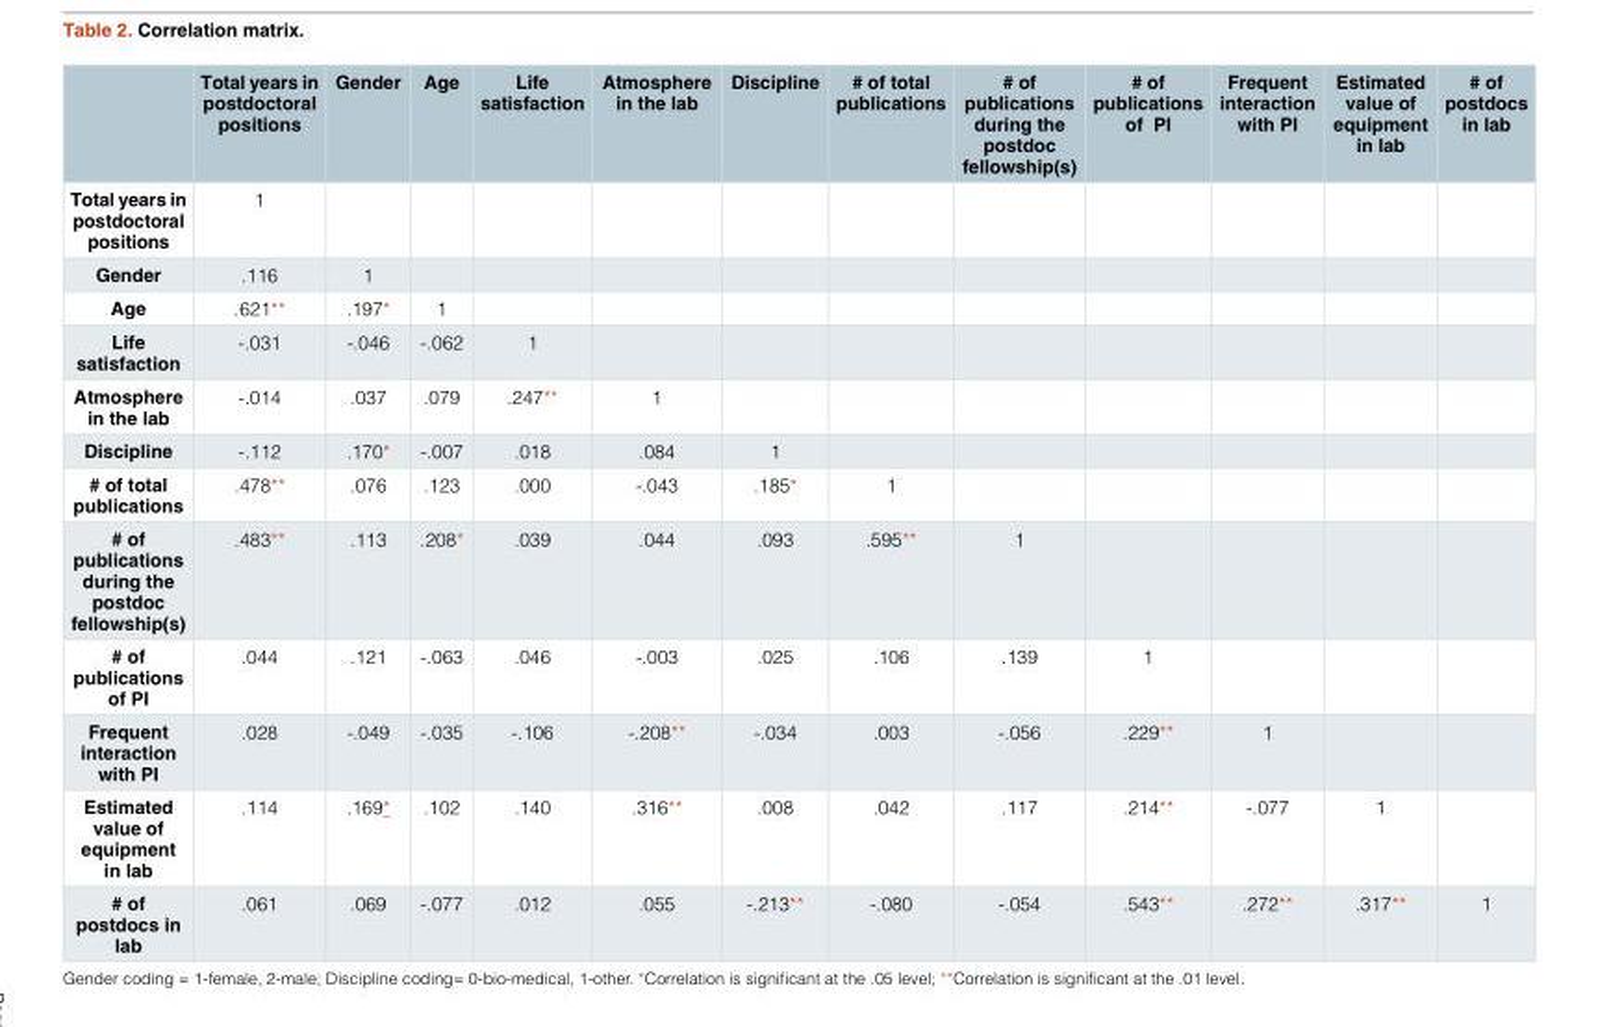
<table><thead><tr><td></td><td>Total years in postdoctoral positions</td><td>Gender</td><td>Age</td><td>Life satisfaction</td><td>Atmosphere in the lab</td><td>Discipline</td><td># of total publications</td><td># of publications during the postdoc fellowship(s)</td><td># of publications of PI</td><td>Frequent interaction with PI</td><td>Estimated value of equipment in lab</td><td># of postdocs in lab</td></tr></thead><tbody><tr><td>Total years in postdoctoral positions</td><td>1</td><td></td><td></td><td></td><td></td><td></td><td></td><td></td><td></td><td></td><td></td><td></td></tr><tr><td>Gender</td><td>.116</td><td>1</td><td></td><td></td><td></td><td></td><td></td><td></td><td></td><td></td><td></td><td></td></tr><tr><td>Age</td><td>.621**</td><td>.197*</td><td>1</td><td></td><td></td><td></td><td></td><td></td><td></td><td></td><td></td><td></td></tr><tr><td>Life satisfaction</td><td>-.031</td><td>-.046</td><td>-.062</td><td>1</td><td></td><td></td><td></td><td></td><td></td><td></td><td></td><td></td></tr><tr><td>Atmosphere in the lab</td><td>-.014</td><td>.037</td><td>.079</td><td>.247**</td><td>1</td><td></td><td></td><td></td><td></td><td></td><td></td><td></td></tr><tr><td>Discipline</td><td>-.112</td><td>.170*</td><td>-.007</td><td>.018</td><td>.084</td><td>1</td><td></td><td></td><td></td><td></td><td></td><td></td></tr><tr><td># of total publications</td><td>.478**</td><td>.076</td><td>.123</td><td>.000</td><td>-.043</td><td>.185*</td><td>1</td><td></td><td></td><td></td><td></td><td></td></tr><tr><td># of publications during the postdoc fellowship(s)</td><td>.483**</td><td>.113</td><td>.208*</td><td>.039</td><td>.044</td><td>.093</td><td>.595**</td><td>1</td><td></td><td></td><td></td><td></td></tr><tr><td># of publications of PI</td><td>.044</td><td>.121</td><td>-.063</td><td>.046</td><td>-.003</td><td>.025</td><td>.106</td><td>.139</td><td>1</td><td></td><td></td><td></td></tr><tr><td>Frequent interaction with PI</td><td>.028</td><td>-.049</td><td>-.035</td><td>-.106</td><td>-.208**</td><td>-.034</td><td>.003</td><td>-.056</td><td>.229**</td><td>1</td><td></td><td></td></tr><tr><td>Estimated value of equipment in lab</td><td>.114</td><td>.169*</td><td>.102</td><td>.140</td><td>.316**</td><td>.008</td><td>.042</td><td>.117</td><td>.214**</td><td>-.077</td><td>1</td><td></td></tr><tr><td># of postdocs in lab</td><td>.061</td><td>.069</td><td>-.077</td><td>.012</td><td>.055</td><td>-.213**</td><td>-.080</td><td>-.054</td><td>.543**</td><td>.272**</td><td>.317**</td><td>1</td></tr></tbody></table>